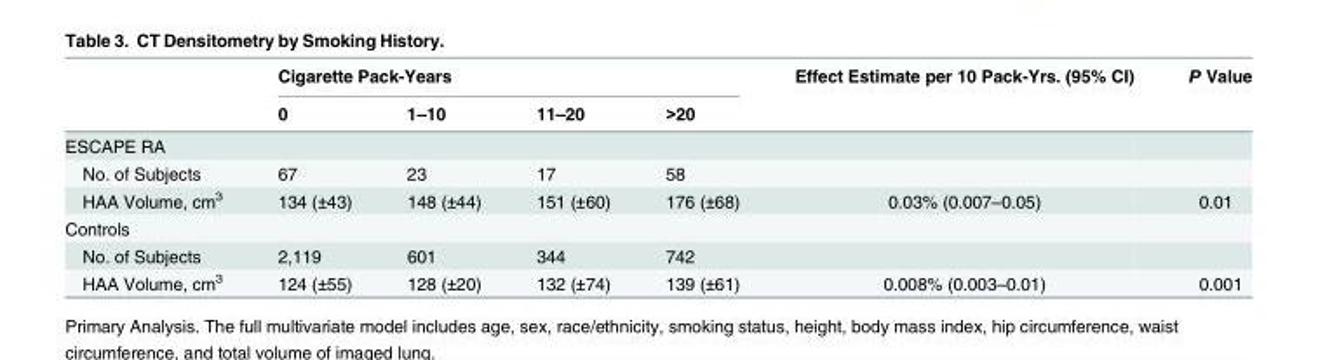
<table><thead><tr><td rowspan="2"></td><td colspan="4">Cigarette Pack-Years</td><td rowspan="2">Effect Estimate per 10 Pack-Yrs. (95% CI)</td><td rowspan="2">P Value</td></tr><tr><td>0</td><td>1–10</td><td>11–20</td><td>&gt;20</td></tr></thead><tbody><tr><td colspan="7">ESCAPE RA</td></tr><tr><td>No. of Subjects</td><td>67</td><td>23</td><td>17</td><td>58</td><td></td><td></td></tr><tr><td>HAA Volume, cm<sup>3</sup></td><td>134 (±43)</td><td>148 (±44)</td><td>151 (±60)</td><td>176 (±68)</td><td>0.03% (0.007–0.05)</td><td>0.01</td></tr><tr><td colspan="7">Controls</td></tr><tr><td>No. of Subjects</td><td>2,119</td><td>601</td><td>344</td><td>742</td><td></td><td></td></tr><tr><td>HAA Volume, cm<sup>3</sup></td><td>124 (±55)</td><td>128 (±20)</td><td>132 (±74)</td><td>139 (±61)</td><td>0.008% (0.003–0.01)</td><td>0.001</td></tr></tbody></table>